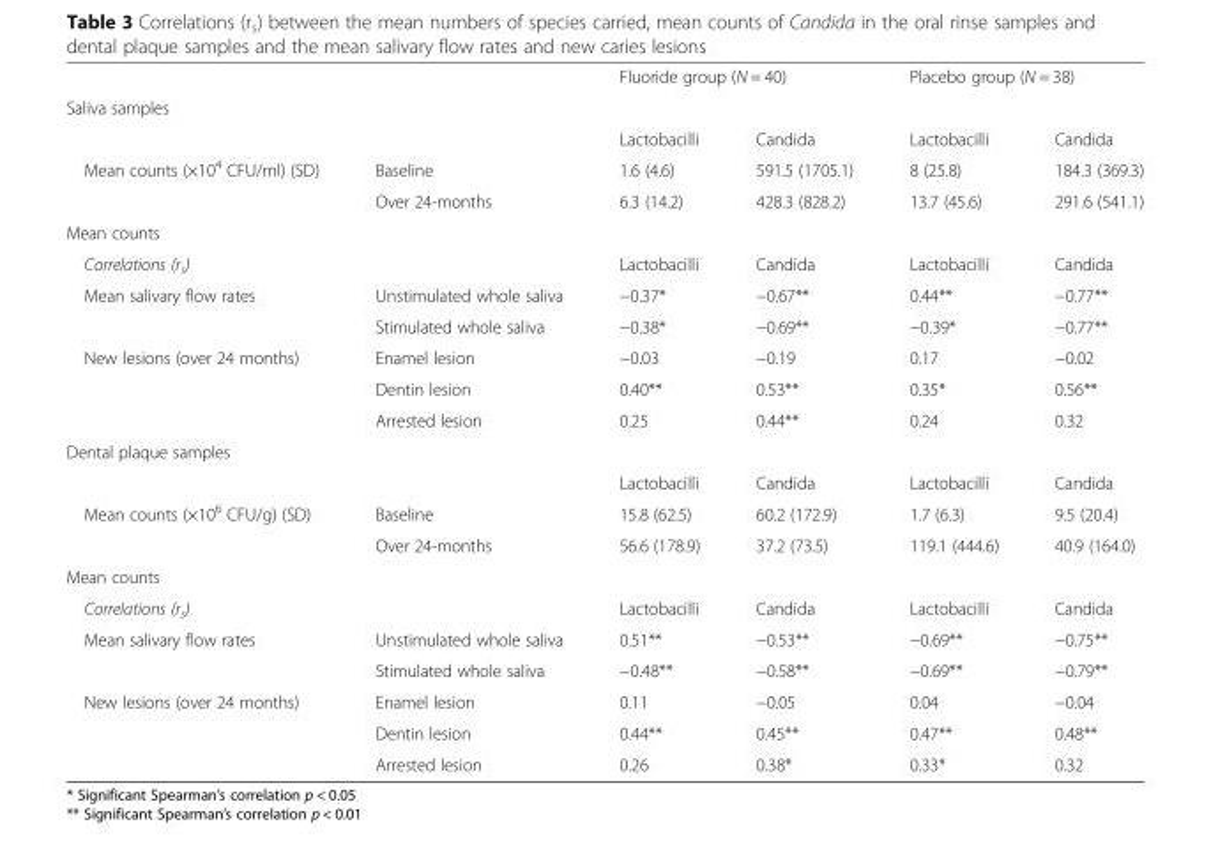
<table><thead><tr><td></td><td></td><td colspan="2">Fluoride group (N = 40)</td><td colspan="2">Placebo group (N = 38)</td></tr><tr><td colspan="6">Saliva samples</td></tr><tr><td colspan="2"></td><td>Lactobacilli</td><td>Candida</td><td>Lactobacilli</td><td>Candida</td></tr></thead><tbody><tr><td rowspan="2">Mean counts (×10<sup>4</sup> CFU/ml) (SD)</td><td>Baseline</td><td>1.6 (4.6)</td><td>591.5 (1705.1)</td><td>8 (25.8)</td><td>184.3 (369.3)</td></tr><tr><td>Over 24-months</td><td>6.3 (14.2)</td><td>428.3 (828.2)</td><td>13.7 (45.6)</td><td>291.6 (541.1)</td></tr><tr><td colspan="6">Mean counts</td></tr><tr><td colspan="2">Correlations (r<sub>s</sub>)</td><td>Lactobacilli</td><td>Candida</td><td>Lactobacilli</td><td>Candida</td></tr><tr><td rowspan="2">Mean salivary flow rates</td><td>Unstimulated whole saliva</td><td>−0.37*</td><td>−0.67**</td><td>0.44**</td><td>−0.77**</td></tr><tr><td>Stimulated whole saliva</td><td>−0.38*</td><td>−0.69**</td><td>−0.39*</td><td>−0.77**</td></tr><tr><td rowspan="3">New lesions (over 24 months)</td><td>Enamel lesion</td><td>−0.03</td><td>−0.19</td><td>0.17</td><td>−0.02</td></tr><tr><td>Dentin lesion</td><td>0.40**</td><td>0.53**</td><td>0.35*</td><td>0.56**</td></tr><tr><td>Arrested lesion</td><td>0.25</td><td>0.44**</td><td>0.24</td><td>0.32</td></tr><tr><td colspan="6">Dental plaque samples</td></tr><tr><td colspan="2"></td><td>Lactobacilli</td><td>Candida</td><td>Lactobacilli</td><td>Candida</td></tr><tr><td rowspan="2">Mean counts (×10<sup>6</sup> CFU/g) (SD)</td><td>Baseline</td><td>15.8 (62.5)</td><td>60.2 (172.9)</td><td>1.7 (6.3)</td><td>9.5 (20.4)</td></tr><tr><td>Over 24-months</td><td>56.6 (178.9)</td><td>37.2 (73.5)</td><td>119.1 (444.6)</td><td>40.9 (164.0)</td></tr><tr><td colspan="6">Mean counts</td></tr><tr><td colspan="2">Correlations (r<sub>s</sub>)</td><td>Lactobacilli</td><td>Candida</td><td>Lactobacilli</td><td>Candida</td></tr><tr><td rowspan="2">Mean salivary flow rates</td><td>Unstimulated whole saliva</td><td>0.51**</td><td>−0.53**</td><td>−0.69**</td><td>−0.75**</td></tr><tr><td>Stimulated whole saliva</td><td>−0.48**</td><td>−0.58**</td><td>−0.69**</td><td>−0.79**</td></tr><tr><td rowspan="3">New lesions (over 24 months)</td><td>Enamel lesion</td><td>0.11</td><td>−0.05</td><td>0.04</td><td>−0.04</td></tr><tr><td>Dentin lesion</td><td>0.44**</td><td>0.45**</td><td>0.47**</td><td>0.48**</td></tr><tr><td>Arrested lesion</td><td>0.26</td><td>0.38*</td><td>0.33*</td><td>0.32</td></tr></tbody></table>